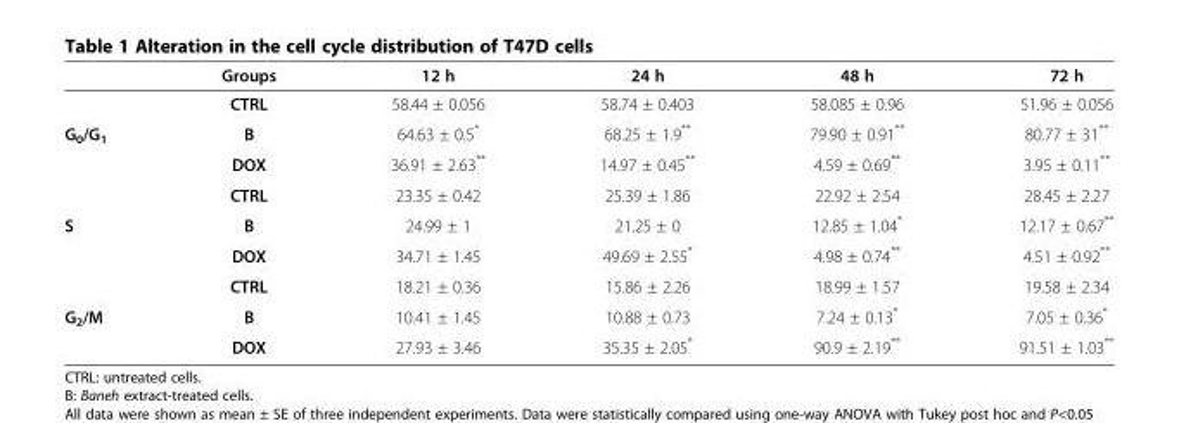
<table><thead><tr><td></td><td>Groups</td><td>12 h</td><td>24 h</td><td>48 h</td><td>72 h</td></tr></thead><tbody><tr><td></td><td>CTRL</td><td>58.44 ± 0.056</td><td>58.74 ± 0.403</td><td>58.085 ± 0.96</td><td>51.96 ± 0.056</td></tr><tr><td rowspan="3">G<sub>0</sub>/G<sub>1</sub></td><td>B</td><td>64.63 ± 0.5*</td><td>68.25 ± 1.9**</td><td>79.90 ± 0.91**</td><td>80.77 ± 31**</td></tr><tr><td>DOX</td><td>36.91 ± 2.63**</td><td>14.97 ± 0.45**</td><td>4.59 ± 0.69**</td><td>3.95 ± 0.11**</td></tr><tr><td>CTRL</td><td>23.35 ± 0.42</td><td>25.39 ± 1.86</td><td>22.92 ± 2.54</td><td>28.45 ± 2.27</td></tr><tr><td rowspan="3">S</td><td>B</td><td>24.99 ± 1</td><td>21.25 ± 0</td><td>12.85 ± 1.04*</td><td>12.17 ± 0.67**</td></tr><tr><td>DOX</td><td>34.71 ± 1.45</td><td>49.69 ± 2.55*</td><td>4.98 ± 0.74**</td><td>4.51 ± 0.92**</td></tr><tr><td>CTRL</td><td>18.21 ± 0.36</td><td>15.86 ± 2.26</td><td>18.99 ± 1.57</td><td>19.58 ± 2.34</td></tr><tr><td rowspan="2">G<sub>2</sub>/M</td><td>B</td><td>10.41 ± 1.45</td><td>10.88 ± 0.73</td><td>7.24 ± 0.13*</td><td>7.05 ± 0.36*</td></tr><tr><td>DOX</td><td>27.93 ± 3.46</td><td>35.35 ± 2.05*</td><td>90.9 ± 2.19**</td><td>91.51 ± 1.03**</td></tr></tbody></table>